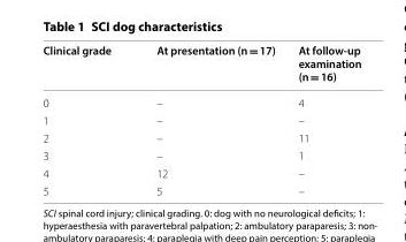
<table><thead><tr><td>Clinical grade</td><td>At presentation (n = 17)</td><td>At follow-up examination (n = 16)</td></tr></thead><tbody><tr><td>0</td><td>–</td><td>4</td></tr><tr><td>1</td><td>–</td><td>–</td></tr><tr><td>2</td><td>–</td><td>11</td></tr><tr><td>3</td><td>–</td><td>1</td></tr><tr><td>4</td><td>12</td><td>–</td></tr><tr><td>5</td><td>5</td><td>–</td></tr></tbody></table>